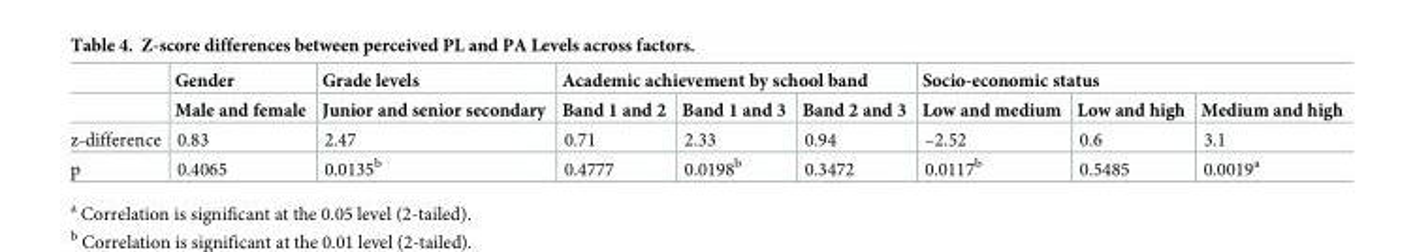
<table><thead><tr><td rowspan="2"></td><td rowspan="2">Gender Male and female</td><td rowspan="2">Grade levels Junior and senior secondary</td><td colspan="3">Academic achievement by school band</td><td colspan="3">Socio-economic status</td></tr><tr><td>Band 1 and 2</td><td>Band 1 and 3</td><td>Band 2 and 3</td><td>Low and medium</td><td>Low and high</td><td>Medium and high</td></tr></thead><tbody><tr><td>z-difference</td><td>0.83</td><td>2.47</td><td>0.71</td><td>2.33</td><td>0.94</td><td>–2.52</td><td>0.6</td><td>3.1</td></tr><tr><td>p</td><td>0.4065</td><td>0.0135<sup>b</sup></td><td>0.4777</td><td>0.0198<sup>b</sup></td><td>0.3472</td><td>0.0117<sup>b</sup></td><td>0.5485</td><td>0.0019<sup>a</sup></td></tr></tbody></table>